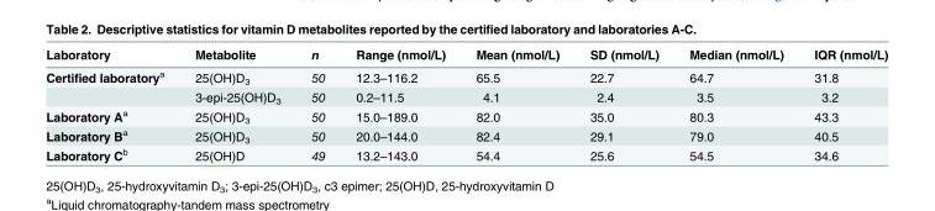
<table><thead><tr><td>Laboratory</td><td>Metabolite</td><td>n</td><td>Range (nmol/L)</td><td>Mean (nmol/L)</td><td>SD (nmol/L)</td><td>Median (nmol/L)</td><td>IQR (nmol/L)</td></tr></thead><tbody><tr><td rowspan="2">Certified laboratory<sup>a</sup></td><td>25(OH)D<sub>3</sub></td><td>50</td><td>12.3–116.2</td><td>65.5</td><td>22.7</td><td>64.7</td><td>31.8</td></tr><tr><td>3-epi-25(OH)D<sub>3</sub></td><td>50</td><td>0.2–11.5</td><td>4.1</td><td>2.4</td><td>3.5</td><td>3.2</td></tr><tr><td>Laboratory A<sup>a</sup></td><td>25(OH)D<sub>3</sub></td><td>50</td><td>15.0–189.0</td><td>82.0</td><td>35.0</td><td>80.3</td><td>43.3</td></tr><tr><td>Laboratory B<sup>a</sup></td><td>25(OH)D<sub>3</sub></td><td>50</td><td>20.0–144.0</td><td>82.4</td><td>29.1</td><td>79.0</td><td>40.5</td></tr><tr><td>Laboratory C<sup>b</sup></td><td>25(OH)D</td><td>49</td><td>13.2–143.0</td><td>54.4</td><td>25.6</td><td>54.5</td><td>34.6</td></tr></tbody></table>